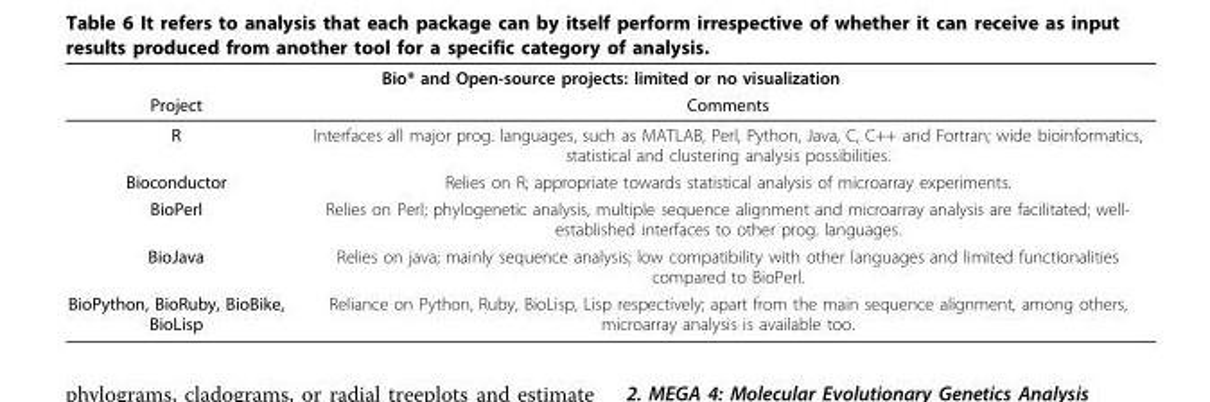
<table><thead><tr><td colspan="2">Bio* and Open-source projects: limited or no visualization</td></tr><tr><td>Project</td><td>Comments</td></tr></thead><tbody><tr><td>R</td><td>Interfaces all major prog. languages, such as MATLAB, Perl, Python, Java, C, C++ and Fortran; wide bioinformatics, statistical and clustering analysis possibilities.</td></tr><tr><td>Bioconductor</td><td>Relies on R; appropriate towards statistical analysis of microarray experiments.</td></tr><tr><td>BioPerl</td><td>Relies on Perl; phylogenetic analysis, multiple sequence alignment and microarray analysis are facilitated; well- established interfaces to other prog. languages.</td></tr><tr><td>BioJava</td><td>Relies on java; mainly sequence analysis; low compatibility with other languages and limited functionalities compared to BioPerl.</td></tr><tr><td>BioPython, BioRuby, BioBike, BioLisp</td><td>Reliance on Python, Ruby, BioLisp, Lisp respectively; apart from the main sequence alignment, among others, microarray analysis is available too.</td></tr></tbody></table>